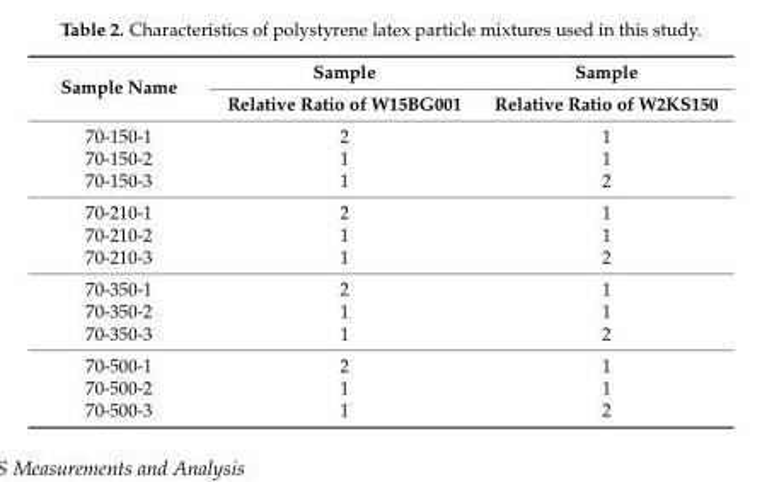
<table><thead><tr><td rowspan="2">Sample Name</td><td rowspan="2">Sample Relative Ratio of W15BG001</td><td rowspan="2">Sample Relative Ratio of W2KS150</td></tr><tr></tr></thead><tbody><tr><td>70-150-1</td><td>2</td><td>1</td></tr><tr><td>70-150-2</td><td>1</td><td>1</td></tr><tr><td>70-150-3</td><td>1</td><td>2</td></tr><tr><td>70-210-1</td><td>2</td><td>1</td></tr><tr><td>70-210-2</td><td>1</td><td>1</td></tr><tr><td>70-210-3</td><td>1</td><td>2</td></tr><tr><td>70-350-1</td><td>2</td><td>1</td></tr><tr><td>70-350-2</td><td>1</td><td>1</td></tr><tr><td>70-350-3</td><td>1</td><td>2</td></tr><tr><td>70-500-1</td><td>2</td><td>1</td></tr><tr><td>70-500-2</td><td>1</td><td>1</td></tr><tr><td>70-500-3</td><td>1</td><td>2</td></tr></tbody></table>